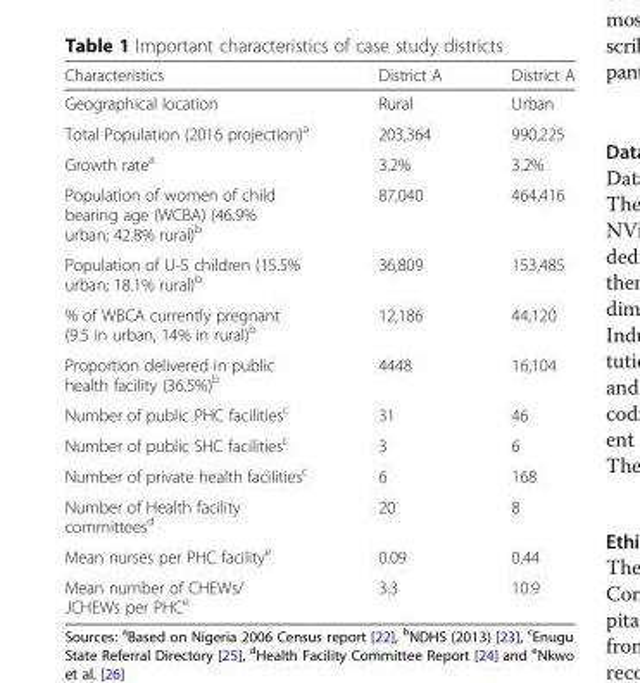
<table><thead><tr><td>Characteristics</td><td>District A</td><td>District A</td></tr></thead><tbody><tr><td>Geographical location</td><td>Rural</td><td>Urban</td></tr><tr><td>Total Population (2016 projection)<sup>a</sup></td><td>203,364</td><td>990,225</td></tr><tr><td>Growth rate<sup>a</sup></td><td>3.2%</td><td>3.2%</td></tr><tr><td>Population of women of child bearing age (WCBA) (46.9% urban; 42.8% rural)<sup>b</sup></td><td>87,040</td><td>464,416</td></tr><tr><td>Population of U-5 children (15.5% urban; 18.1% rural)<sup>b</sup></td><td>36,809</td><td>153,485</td></tr><tr><td>% of WBCA currently pregnant (9.5 in urban, 14% in rural)<sup>b</sup></td><td>12,186</td><td>44,120</td></tr><tr><td>Proportion delivered in public health facility (36.5%)<sup>b</sup></td><td>4448</td><td>16,104</td></tr><tr><td>Number of public PHC facilities<sup>c</sup></td><td>31</td><td>46</td></tr><tr><td>Number of public SHC facilities<sup>c</sup></td><td>3</td><td>6</td></tr><tr><td>Number of private health facilities<sup>c</sup></td><td>6</td><td>168</td></tr><tr><td>Number of Health facility committees<sup>d</sup></td><td>20</td><td>8</td></tr><tr><td>Mean nurses per PHC facility<sup>e</sup></td><td>0.09</td><td>0.44</td></tr><tr><td>Mean number of CHEWs/ JCHEWs per PHC<sup>e</sup></td><td>3.3</td><td>10.9</td></tr></tbody></table>